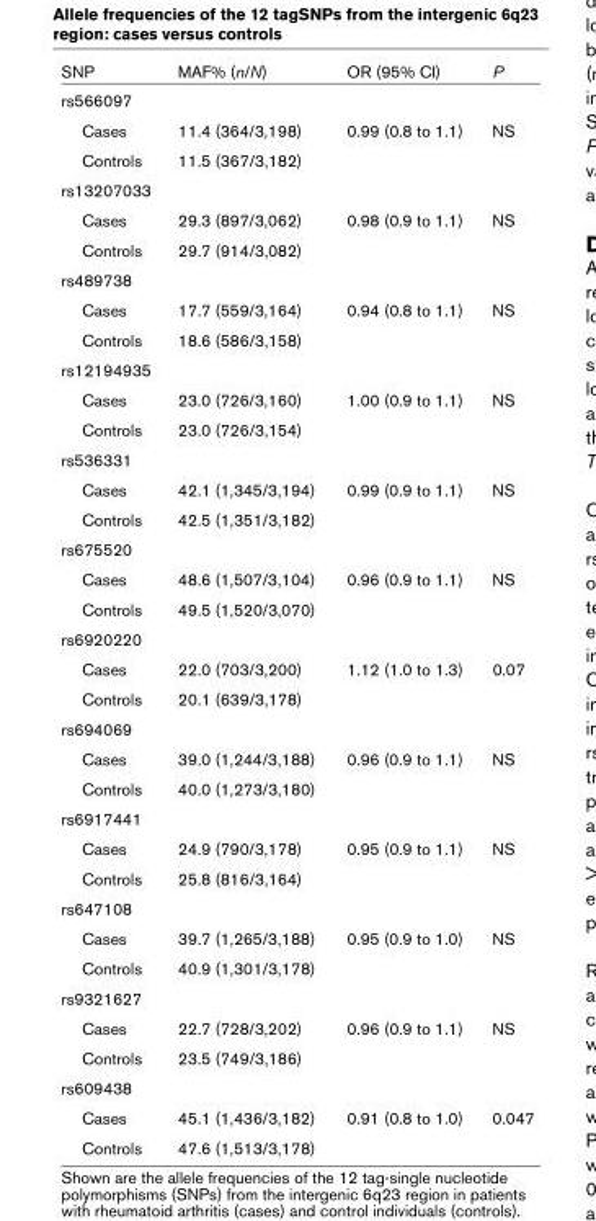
<table><thead><tr><td>SNP</td><td>MAF% (n/N)</td><td>OR (95% CI)</td><td>P</td></tr></thead><tbody><tr><td colspan="4">rs566097</td></tr><tr><td>Cases</td><td>11.4 (364/3,198)</td><td>0.99 (0.8 to 1.1)</td><td>NS</td></tr><tr><td>Controls</td><td>11.5 (367/3,182)</td><td></td><td></td></tr><tr><td colspan="4">rs13207033</td></tr><tr><td>Cases</td><td>29.3 (897/3,062)</td><td>0.98 (0.9 to 1.1)</td><td>NS</td></tr><tr><td>Controls</td><td>29.7 (914/3,082)</td><td></td><td></td></tr><tr><td colspan="4">rs489738</td></tr><tr><td>Cases</td><td>17.7 (559/3,164)</td><td>0.94 (0.8 to 1.1)</td><td>NS</td></tr><tr><td>Controls</td><td>18.6 (586/3,158)</td><td></td><td></td></tr><tr><td colspan="4">rs12194935</td></tr><tr><td>Cases</td><td>23.0 (726/3,160)</td><td>1.00 (0.9 to 1.1)</td><td>NS</td></tr><tr><td>Controls</td><td>23.0 (726/3,154)</td><td></td><td></td></tr><tr><td colspan="4">rs536331</td></tr><tr><td>Cases</td><td>42.1 (1,345/3,194)</td><td>0.99 (0.9 to 1.1)</td><td>NS</td></tr><tr><td>Controls</td><td>42.5 (1,351/3,182)</td><td></td><td></td></tr><tr><td colspan="4">rs675520</td></tr><tr><td>Cases</td><td>48.6 (1,507/3,104)</td><td>0.96 (0.9 to 1.1)</td><td>NS</td></tr><tr><td>Controls</td><td>49.5 (1,520/3,070)</td><td></td><td></td></tr><tr><td colspan="4">rs6920220</td></tr><tr><td>Cases</td><td>22.0 (703/3,200)</td><td>1.12 (1.0 to 1.3)</td><td>0.07</td></tr><tr><td>Controls</td><td>20.1 (639/3,178)</td><td></td><td></td></tr><tr><td colspan="4">rs694069</td></tr><tr><td>Cases</td><td>39.0 (1,244/3,188)</td><td>0.96 (0.9 to 1.1)</td><td>NS</td></tr><tr><td>Controls</td><td>40.0 (1,273/3,180)</td><td></td><td></td></tr><tr><td colspan="4">rs6917441</td></tr><tr><td>Cases</td><td>24.9 (790/3,178)</td><td>0.95 (0.9 to 1.1)</td><td>NS</td></tr><tr><td>Controls</td><td>25.8 (816/3,164)</td><td></td><td></td></tr><tr><td colspan="4">rs647108</td></tr><tr><td>Cases</td><td>39.7 (1,265/3,188)</td><td>0.95 (0.9 to 1.0)</td><td>NS</td></tr><tr><td>Controls</td><td>40.9 (1,301/3,178)</td><td></td><td></td></tr><tr><td colspan="4">rs9321627</td></tr><tr><td>Cases</td><td>22.7 (728/3,202)</td><td>0.96 (0.9 to 1.1)</td><td>NS</td></tr><tr><td>Controls</td><td>23.5 (749/3,186)</td><td></td><td></td></tr><tr><td colspan="4">rs609438</td></tr><tr><td>Cases</td><td>45.1 (1,436/3,182)</td><td>0.91 (0.8 to 1.0)</td><td>0.047</td></tr><tr><td>Controls</td><td>47.6 (1,513/3,178)</td><td></td><td></td></tr></tbody></table>